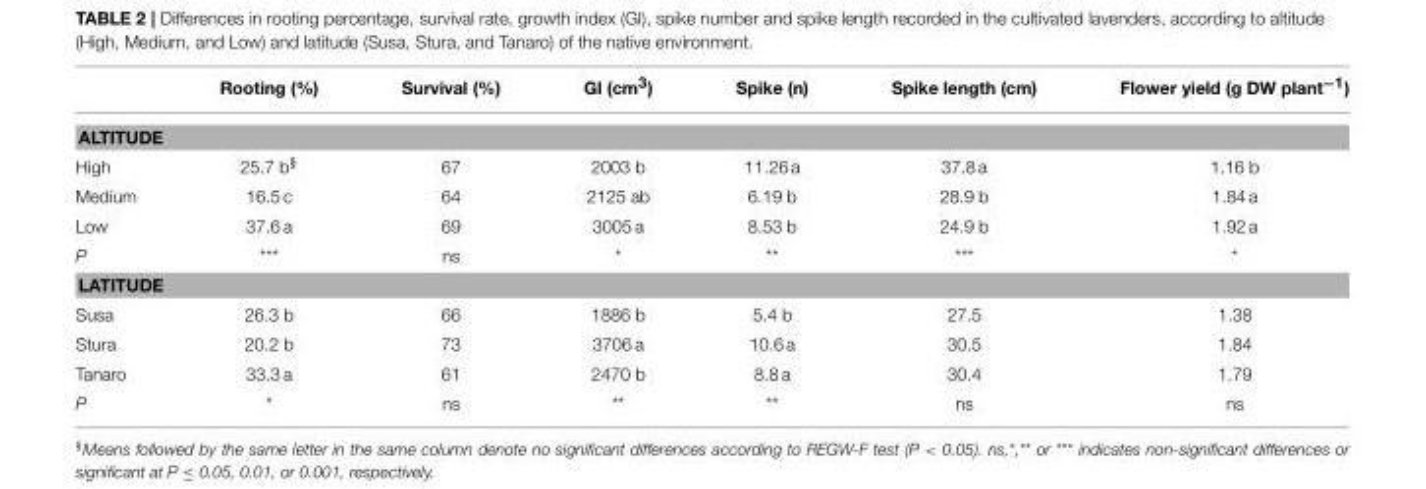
<table><thead><tr><td></td><td>Rooting (%)</td><td>Survival (%)</td><td>GI (cm<sup>3</sup>)</td><td>Spike (n)</td><td>Spike length (cm)</td><td>Flower yield (g DW plant<sup>−1</sup>)</td></tr></thead><tbody><tr><td colspan="7">ALTITUDE</td></tr><tr><td>High</td><td>25.7 b<sup>§</sup></td><td>67</td><td>2003 b</td><td>11.26 a</td><td>37.8 a</td><td>1.16 b</td></tr><tr><td>Medium</td><td>16.5 c</td><td>64</td><td>2125 ab</td><td>6.19 b</td><td>28.9 b</td><td>1.84 a</td></tr><tr><td>Low</td><td>37.6 a</td><td>69</td><td>3005 a</td><td>8.53 b</td><td>24.9 b</td><td>1.92 a</td></tr><tr><td>P</td><td>***</td><td>ns</td><td>*</td><td>**</td><td>***</td><td>*</td></tr><tr><td colspan="7">LATITUDE</td></tr><tr><td>Susa</td><td>26.3 b</td><td>66</td><td>1886 b</td><td>5.4 b</td><td>27.5</td><td>1.38</td></tr><tr><td>Stura</td><td>20.2 b</td><td>73</td><td>3706 a</td><td>10.6 a</td><td>30.5</td><td>1.84</td></tr><tr><td>Tanaro</td><td>33.3 a</td><td>61</td><td>2470 b</td><td>8.8 a</td><td>30.4</td><td>1.79</td></tr><tr><td>P</td><td>*</td><td>ns</td><td>**</td><td>**</td><td>ns</td><td>ns</td></tr></tbody></table>